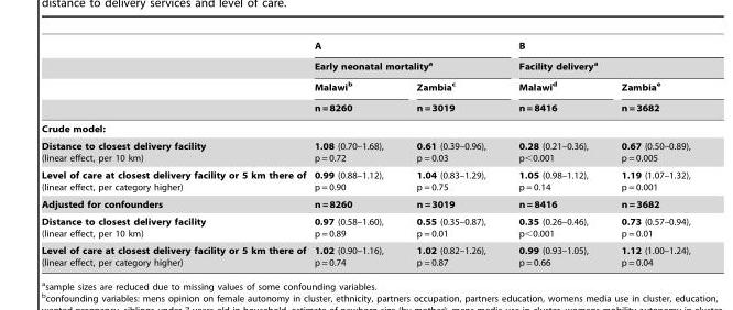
<table><thead><tr><td rowspan="4"></td><td rowspan="2" colspan="2">A Early neonatal mortality<sup>a</sup></td><td rowspan="2" colspan="2">B Facility delivery<sup>a</sup></td></tr><tr></tr><tr><td rowspan="2">Malawib n = 8260</td><td rowspan="2">Zambiac n = 3019</td><td rowspan="2">Malawid n = 8416</td><td rowspan="2">Zambiae n = 3682</td></tr><tr></tr></thead><tbody><tr><td colspan="5">Crude model:</td></tr><tr><td>Distance to closest delivery facility (linear effect, per 10 km)</td><td>1.08 (0.70–1.68), p = 0.72</td><td>0.61 (0.39–0.96), p = 0.03</td><td>0.28 (0.21–0.36), p&lt;0.001</td><td>0.67 (0.50–0.89), p = 0.005</td></tr><tr><td>Level of care at closest delivery facility or 5 km there of (linear effect, per category higher)</td><td>0.99 (0.88–1.12), p = 0.90</td><td>1.04 (0.83–1.29), p = 0.75</td><td>1.05 (0.98–1.12), p = 0.14</td><td>1.19 (1.07–1.32), p = 0.001</td></tr><tr><td>Adjusted for confounders</td><td>n = 8260</td><td>n = 3019</td><td>n = 8416</td><td>n = 3682</td></tr><tr><td>Distance to closest delivery facility (linear effect, per 10 km)</td><td>0.97 (0.58–1.60), p = 0.89</td><td>0.55 (0.35–0.87), p = 0.01</td><td>0.35 (0.26–0.46), p&lt;0.001</td><td>0.73 (0.57–0.94), p = 0.01</td></tr><tr><td>Level of care at closest delivery facility or 5 km there of (linear effect, per category higher)</td><td>1.02 (0.90–1.16), p = 0.74</td><td>1.02 (0.82–1.26), p = 0.87</td><td>0.99 (0.93–1.05), p = 0.66</td><td>1.12 (1.00–1.24), p = 0.04</td></tr></tbody></table>